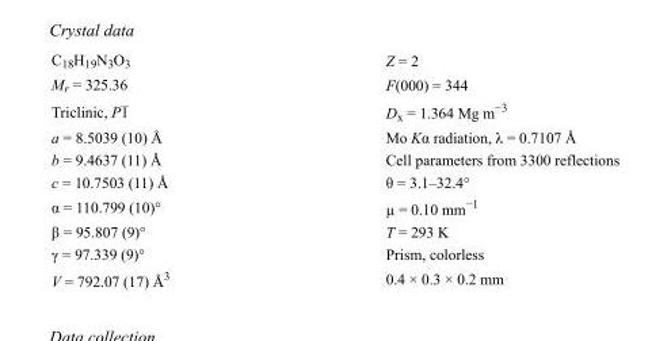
<table><tbody><tr><td>C<sub>18</sub>H<sub>19</sub>N<sub>3</sub>O<sub>3</sub></td><td>Z = 2</td></tr><tr><td>M<sub>r</sub> = 325.36</td><td>F(000) = 344</td></tr><tr><td>Triclinic, P1</td><td>D<sub>x</sub> = 1.364 Mg m<sup>−3</sup></td></tr><tr><td>a = 8.5039 (10) Å</td><td>Mo Kα radiation, λ = 0.7107 Å</td></tr><tr><td>b = 9.4637 (11) Å</td><td>Cell parameters from 3300 reflections</td></tr><tr><td>c = 10.7503 (11) Å</td><td>θ = 3.1–32.4°</td></tr><tr><td>α = 110.799 (10)°</td><td>µ = 0.10 mm<sup>−1</sup></td></tr><tr><td>β = 95.807 (9)°</td><td>T = 293 K</td></tr><tr><td>γ = 97.339 (9)°</td><td>Prism, colorless</td></tr><tr><td>V = 792.07 (17) Å<sup>3</sup></td><td>0.4 × 0.3 × 0.2 mm</td></tr></tbody></table>